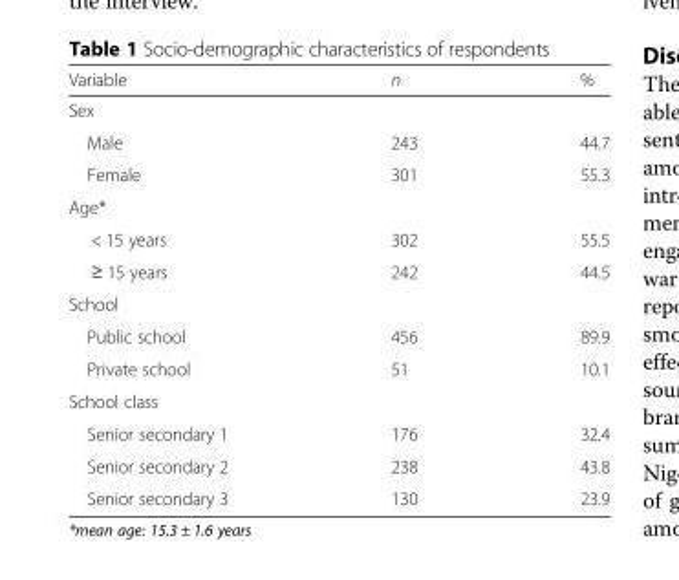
<table><thead><tr><td>Variable</td><td>n</td><td>%</td></tr></thead><tbody><tr><td colspan="3">Sex</td></tr><tr><td>Male</td><td>243</td><td>44.7</td></tr><tr><td>Female</td><td>301</td><td>55.3</td></tr><tr><td colspan="3">Age*</td></tr><tr><td>&lt; 15 years</td><td>302</td><td>55.5</td></tr><tr><td>≥ 15 years</td><td>242</td><td>44.5</td></tr><tr><td colspan="3">School</td></tr><tr><td>Public school</td><td>456</td><td>89.9</td></tr><tr><td>Private school</td><td>51</td><td>10.1</td></tr><tr><td colspan="3">School class</td></tr><tr><td>Senior secondary 1</td><td>176</td><td>32.4</td></tr><tr><td>Senior secondary 2</td><td>238</td><td>43.8</td></tr><tr><td>Senior secondary 3</td><td>130</td><td>23.9</td></tr></tbody></table>